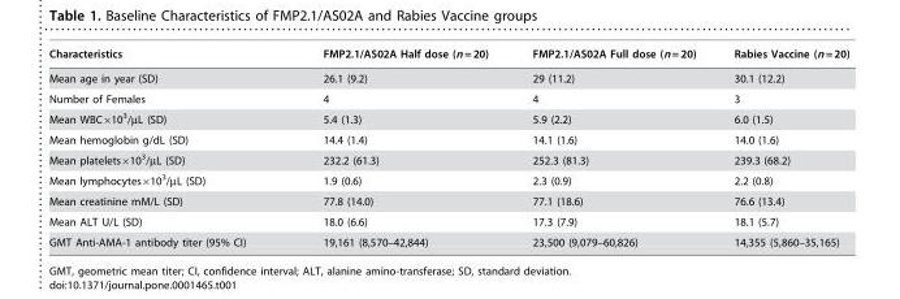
<table><thead><tr><td>Characteristics</td><td>FMP2.1/AS02A Half dose (n = 20)</td><td>FMP2.1/AS02A Full dose (n = 20)</td><td>Rabies Vaccine (n = 20)</td></tr></thead><tbody><tr><td>Mean age in year (SD)</td><td>26.1 (9.2)</td><td>29 (11.2)</td><td>30.1 (12.2)</td></tr><tr><td>Number of Females</td><td>4</td><td>4</td><td>3</td></tr><tr><td>Mean WBC×10<sup>3</sup>/µL (SD)</td><td>5.4 (1.3)</td><td>5.9 (2.2)</td><td>6.0 (1.5)</td></tr><tr><td>Mean hemoglobin g/dL (SD)</td><td>14.4 (1.4)</td><td>14.1 (1.6)</td><td>14.0 (1.6)</td></tr><tr><td>Mean platelets×10<sup>3</sup>/µL (SD)</td><td>232.2 (61.3)</td><td>252.3 (81.3)</td><td>239.3 (68.2)</td></tr><tr><td>Mean lymphocytes×10<sup>3</sup>/µL (SD)</td><td>1.9 (0.6)</td><td>2.3 (0.9)</td><td>2.2 (0.8)</td></tr><tr><td>Mean creatinine mM/L (SD)</td><td>77.8 (14.0)</td><td>77.1 (18.6)</td><td>76.6 (13.4)</td></tr><tr><td>Mean ALT U/L (SD)</td><td>18.0 (6.6)</td><td>17.3 (7.9)</td><td>18.1 (5.7)</td></tr><tr><td>GMT Anti-AMA-1 antibody titer (95% CI)</td><td>19,161 (8,570–42,844)</td><td>23,500 (9,079–60,826)</td><td>14,355 (5,860–35,165)</td></tr></tbody></table>